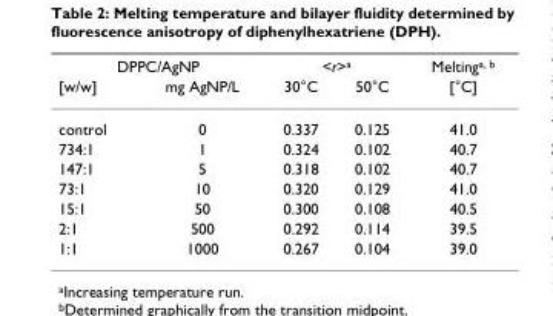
<table><thead><tr><td colspan="2">DPPC/AgNP</td><td colspan="2">&lt;r&gt;<sup>a</sup></td><td rowspan="2">Melting<sup>a, b</sup> [°C]</td></tr><tr><td>[w/w]</td><td>mg AgNP/L</td><td>30°C</td><td>50°C</td></tr></thead><tbody><tr><td>control</td><td>0</td><td>0.337</td><td>0.125</td><td>41.0</td></tr><tr><td>734:1</td><td>1</td><td>0.324</td><td>0.102</td><td>40.7</td></tr><tr><td>147:1</td><td>5</td><td>0.318</td><td>0.102</td><td>40.7</td></tr><tr><td>73:1</td><td>10</td><td>0.320</td><td>0.129</td><td>41.0</td></tr><tr><td>15:1</td><td>50</td><td>0.300</td><td>0.108</td><td>40.5</td></tr><tr><td>2:1</td><td>500</td><td>0.292</td><td>0.114</td><td>39.5</td></tr><tr><td>1:1</td><td>1000</td><td>0.267</td><td>0.104</td><td>39.0</td></tr></tbody></table>